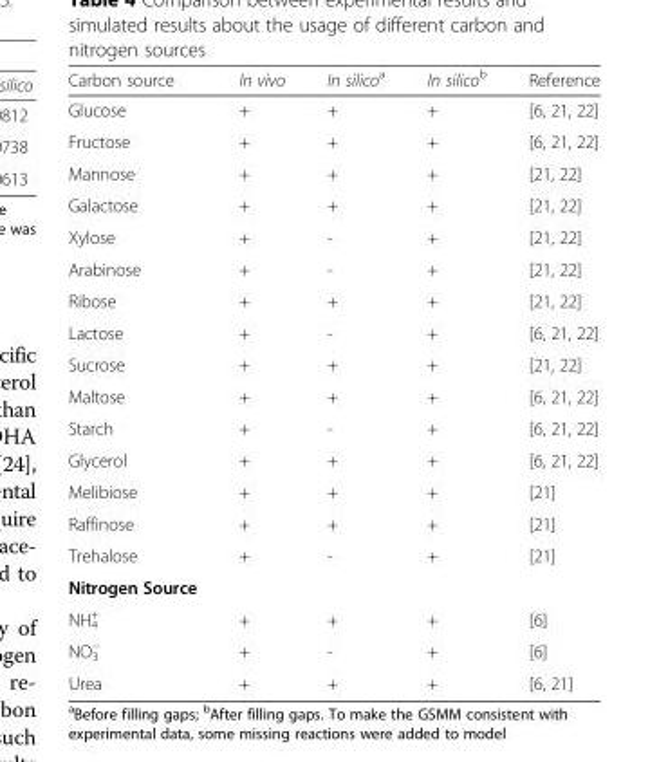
<table><thead><tr><td>Carbon source</td><td>In vivo</td><td>In silico<sup>a</sup></td><td>In silico<sup>b</sup></td><td>Reference</td></tr></thead><tbody><tr><td>Glucose</td><td>+</td><td>+</td><td>+</td><td>[6, 21, 22]</td></tr><tr><td>Fructose</td><td>+</td><td>+</td><td>+</td><td>[6, 21, 22]</td></tr><tr><td>Mannose</td><td>+</td><td>+</td><td>+</td><td>[21, 22]</td></tr><tr><td>Galactose</td><td>+</td><td>+</td><td>+</td><td>[21, 22]</td></tr><tr><td>Xylose</td><td>+</td><td>-</td><td>+</td><td>[21, 22]</td></tr><tr><td>Arabinose</td><td>+</td><td>-</td><td>+</td><td>[21, 22]</td></tr><tr><td>Ribose</td><td>+</td><td>+</td><td>+</td><td>[21, 22]</td></tr><tr><td>Lactose</td><td>+</td><td>-</td><td>+</td><td>[6, 21, 22]</td></tr><tr><td>Sucrose</td><td>+</td><td>+</td><td>+</td><td>[21, 22]</td></tr><tr><td>Maltose</td><td>+</td><td>+</td><td>+</td><td>[6, 21, 22]</td></tr><tr><td>Starch</td><td>+</td><td>-</td><td>+</td><td>[6, 21, 22]</td></tr><tr><td>Glycerol</td><td>+</td><td>+</td><td>+</td><td>[6, 21, 22]</td></tr><tr><td>Melibiose</td><td>+</td><td>+</td><td>+</td><td>[21]</td></tr><tr><td>Raffinose</td><td>+</td><td>+</td><td>+</td><td>[21]</td></tr><tr><td>Trehalose</td><td>+</td><td>-</td><td>+</td><td>[21]</td></tr><tr><td colspan="5">Nitrogen Source</td></tr><tr><td>NH<sub>4</sub> <sup>+</sup></td><td>+</td><td>+</td><td>+</td><td>[6]</td></tr><tr><td>NO<sub>3</sub> <sup>−</sup></td><td>+</td><td>-</td><td>+</td><td>[6]</td></tr><tr><td>Urea</td><td>+</td><td>+</td><td>+</td><td>[6, 21]</td></tr></tbody></table>